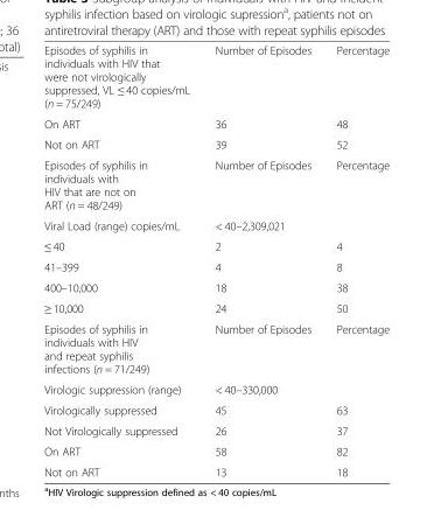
<table><tbody><tr><td>Episodes of syphilis in individuals with HIV that were not virologically suppressed, VL ≤ 40 copies/mL (n = 75/249)</td><td>Number of Episodes</td><td>Percentage</td></tr><tr><td>On ART</td><td>36</td><td>48</td></tr><tr><td>Not on ART</td><td>39</td><td>52</td></tr><tr><td>Episodes of syphilis in individuals with HIV that are not on ART (n = 48/249)</td><td>Number of Episodes</td><td>Percentage</td></tr><tr><td>Viral Load (range) copies/mL</td><td>&lt; 40–2,309,021</td><td></td></tr><tr><td>≤ 40</td><td>2</td><td>4</td></tr><tr><td>41–399</td><td>4</td><td>8</td></tr><tr><td>400–10,000</td><td>18</td><td>38</td></tr><tr><td>≥ 10,000</td><td>24</td><td>50</td></tr><tr><td>Episodes of syphilis in individuals with HIV and repeat syphilis infections (n = 71/249)</td><td>Number of Episodes</td><td>Percentage</td></tr><tr><td>Virologic suppression (range)</td><td>&lt; 40–330,000</td><td></td></tr><tr><td>Virologically suppressed</td><td>45</td><td>63</td></tr><tr><td>Not Virologically suppressed</td><td>26</td><td>37</td></tr><tr><td>On ART</td><td>58</td><td>82</td></tr><tr><td>Not on ART</td><td>13</td><td>18</td></tr></tbody></table>